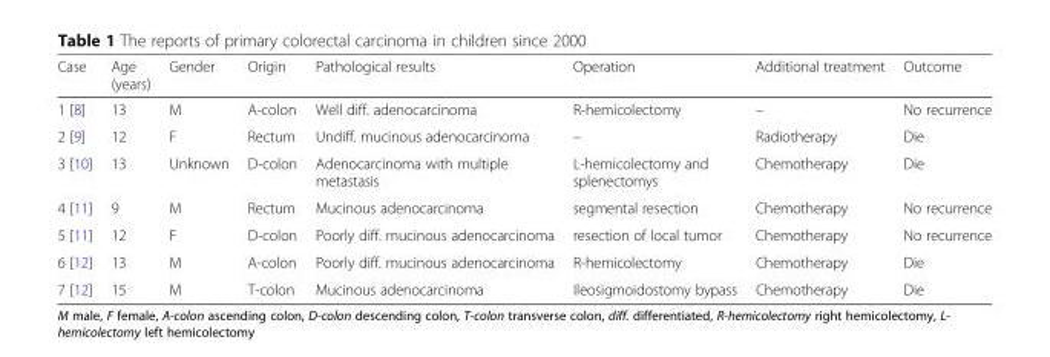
<table><thead><tr><td>Case</td><td>Age (years)</td><td>Gender</td><td>Origin</td><td>Pathological results</td><td>Operation</td><td>Additional treatment</td><td>Outcome</td></tr></thead><tbody><tr><td>1 [8]</td><td>13</td><td>M</td><td>A-colon</td><td>Well diff. adenocarcinoma</td><td>R-hemicolectomy</td><td>–</td><td>No recurrence</td></tr><tr><td>2 [9]</td><td>12</td><td>F</td><td>Rectum</td><td>Undiff. mucinous adenocarcinoma</td><td>–</td><td>Radiotherapy</td><td>Die</td></tr><tr><td>3 [10]</td><td>13</td><td>Unknown</td><td>D-colon</td><td>Adenocarcinoma with multiple metastasis</td><td>L-hemicolectomy and splenectomys</td><td>Chemotherapy</td><td>Die</td></tr><tr><td>4 [11]</td><td>9</td><td>M</td><td>Rectum</td><td>Mucinous adenocarcinoma</td><td>segmental resection</td><td>Chemotherapy</td><td>No recurrence</td></tr><tr><td>5 [11]</td><td>12</td><td>F</td><td>D-colon</td><td>Poorly diff. mucinous adenocarcinoma</td><td>resection of local tumor</td><td>Chemotherapy</td><td>No recurrence</td></tr><tr><td>6 [12]</td><td>13</td><td>M</td><td>A-colon</td><td>Poorly diff. mucinous adenocarcinoma</td><td>R-hemicolectomy</td><td>Chemotherapy</td><td>Die</td></tr><tr><td>7 [12]</td><td>15</td><td>M</td><td>T-colon</td><td>Mucinous adenocarcinoma</td><td>Ileosigmoidostomy bypass</td><td>Chemotherapy</td><td>Die</td></tr></tbody></table>